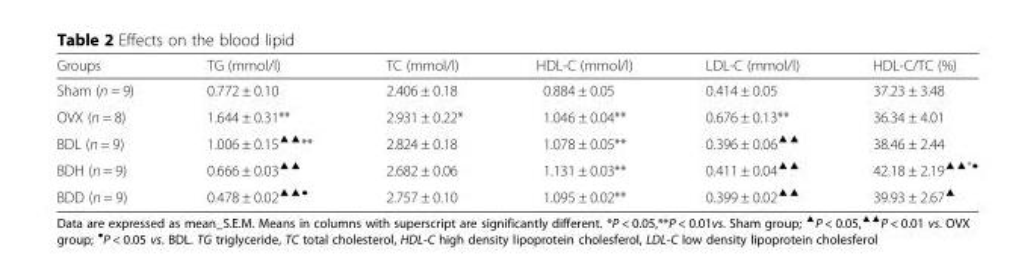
<table><thead><tr><td>Groups</td><td>TG (mmol/l)</td><td>TC (mmol/l)</td><td>HDL-C (mmol/l)</td><td>LDL-C (mmol/l)</td><td>HDL-C/TC (%)</td></tr></thead><tbody><tr><td>Sham (n = 9)</td><td>0.772 ± 0.10</td><td>2.406 ± 0.18</td><td>0.884 ± 0.05</td><td>0.414 ± 0.05</td><td>37.23 ± 3.48</td></tr><tr><td>OVX (n = 8)</td><td>1.644 ± 0.31**</td><td>2.931 ± 0.22*</td><td>1.046 ± 0.04**</td><td>0.676 ± 0.13**</td><td>36.34 ± 4.01</td></tr><tr><td>BDL (n = 9)</td><td>1.006 ± 0.15<sup>▲▲</sup>**</td><td>2.824 ± 0.18</td><td>1.078 ± 0.05**</td><td>0.396 ± 0.06<sup>▲▲</sup></td><td>38.46 ± 2.44</td></tr><tr><td>BDH (n = 9)</td><td>0.666 ± 0.03<sup>▲▲</sup></td><td>2.682 ± 0.06</td><td>1.131 ± 0.03**</td><td>0.411 ± 0.04<sup>▲▲</sup></td><td>42.18 ± 2.19<sup>▲▲*●</sup></td></tr><tr><td>BDD (n = 9)</td><td>0.478 ± 0.02<sup>▲▲●</sup></td><td>2.757 ± 0.10</td><td>1.095 ± 0.02**</td><td>0.399 ± 0.02<sup>▲▲</sup></td><td>39.93 ± 2.67<sup>▲</sup></td></tr></tbody></table>